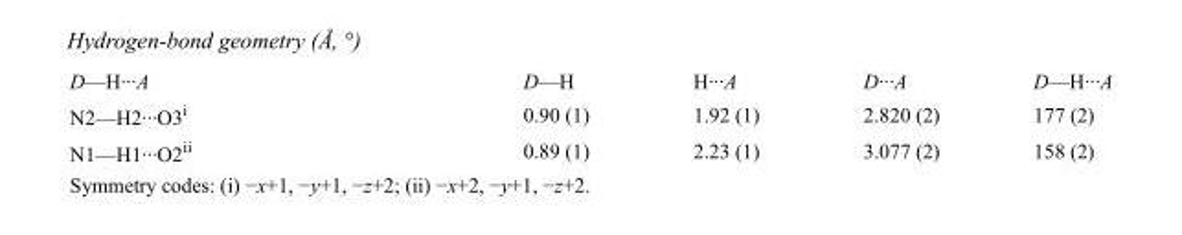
<table><tbody><tr><td>D—H···A</td><td>D—H</td><td>H···A</td><td>D···A</td><td>D—H···A</td></tr><tr><td>N2—H2···O3<sup>i</sup></td><td>0.90 (1)</td><td>1.92 (1)</td><td>2.820 (2)</td><td>177 (2)</td></tr><tr><td>N1—H1···O2<sup>ii</sup></td><td>0.89 (1)</td><td>2.23 (1)</td><td>3.077 (2)</td><td>158 (2)</td></tr></tbody></table>